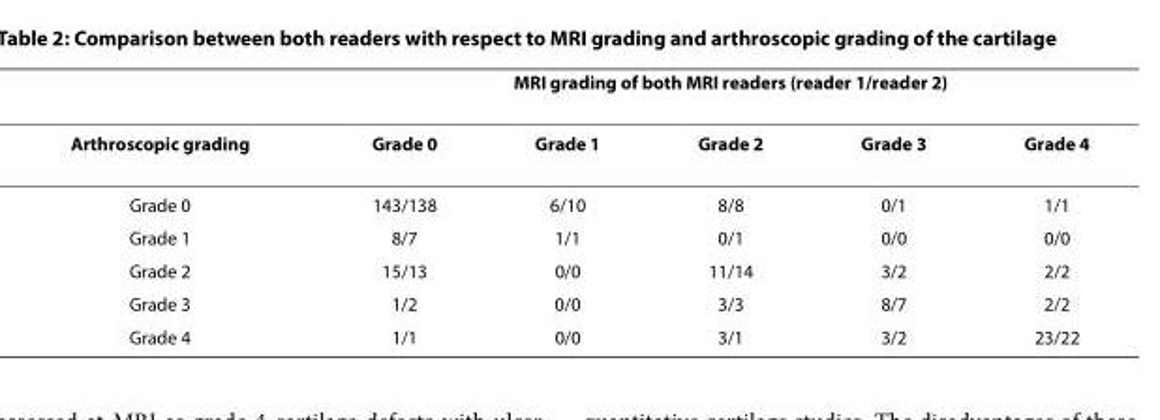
<table><thead><tr><td rowspan="2">Arthroscopic grading</td><td colspan="5">MRI grading of both MRI readers (reader 1/reader 2)</td></tr><tr><td>Grade 0</td><td>Grade 1</td><td>Grade 2</td><td>Grade 3</td><td>Grade 4</td></tr></thead><tbody><tr><td>Grade 0</td><td>143/138</td><td>6/10</td><td>8/8</td><td>0/1</td><td>1/1</td></tr><tr><td>Grade 1</td><td>8/7</td><td>1/1</td><td>0/1</td><td>0/0</td><td>0/0</td></tr><tr><td>Grade 2</td><td>15/13</td><td>0/0</td><td>11/14</td><td>3/2</td><td>2/2</td></tr><tr><td>Grade 3</td><td>1/2</td><td>0/0</td><td>3/3</td><td>8/7</td><td>2/2</td></tr><tr><td>Grade 4</td><td>1/1</td><td>0/0</td><td>3/1</td><td>3/2</td><td>23/22</td></tr></tbody></table>